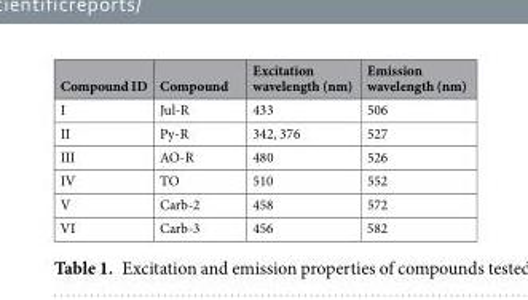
<table><thead><tr><td>Compound ID</td><td>Compound</td><td>Excitation wavelength (nm)</td><td>Emission wavelength (nm)</td></tr></thead><tbody><tr><td>I</td><td>Jul-R</td><td>433</td><td>506</td></tr><tr><td>II</td><td>Py-R</td><td>342, 376</td><td>527</td></tr><tr><td>III</td><td>AO-R</td><td>480</td><td>526</td></tr><tr><td>IV</td><td>TO</td><td>510</td><td>552</td></tr><tr><td>V</td><td>Carb-2</td><td>458</td><td>572</td></tr><tr><td>VI</td><td>Carb-3</td><td>456</td><td>582</td></tr></tbody></table>